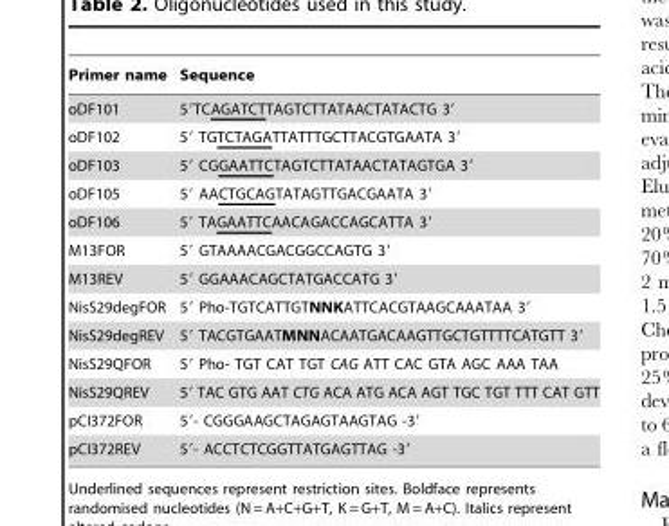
<table><thead><tr><td>Primer name</td><td>Sequence</td></tr></thead><tbody><tr><td>oDF101</td><td>5′TCAGATCTTAGTCTTATAACTATACTG 3′</td></tr><tr><td>oDF102</td><td>5′ TGTCTAGATTATTTGCTTACGTGAATA 3′</td></tr><tr><td>oDF103</td><td>5′ CGGAATTCTAGTCTTATAACTATAGTGA 3′</td></tr><tr><td>oDF105</td><td>5′ AACTGCAGTATAGTTGACGAATA 3′</td></tr><tr><td>oDF106</td><td>5′ TAGAATTCAACAGACCAGCATTA 3′</td></tr><tr><td>M13FOR</td><td>5′ GTAAAACGACGGCCAGTG 3′</td></tr><tr><td>M13REV</td><td>5′ GGAAACAGCTATGACCATG 3′</td></tr><tr><td>NisS29degFOR</td><td>5′ Pho-TGTCATTGTNNKATTCACGTAAGCAAATAA 3′</td></tr><tr><td>NisS29degREV</td><td>5′ TACGTGAATMNNACAATGACAAGTTGCTGTTTTCATGTT 3′</td></tr><tr><td>NisS29QFOR</td><td>5′ Pho- TGT CAT TGT CAG ATT CAC GTA AGC AAA TAA</td></tr><tr><td>NisS29QREV</td><td>5′ TAC GTG AAT CTG ACA ATG ACA AGT TGC TGT TTT CAT GTT</td></tr><tr><td>pCI372FOR</td><td>5′- CGGGAAGCTAGAGTAAGTAG -3′</td></tr><tr><td>pCI372REV</td><td>5′- ACCTCTCGGTTATGAGTTAG -3′</td></tr></tbody></table>